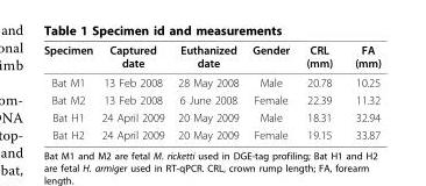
<table><thead><tr><td>Specimen</td><td>Captured date</td><td>Euthanized date</td><td>Gender</td><td>CRL (mm)</td><td>FA (mm)</td></tr></thead><tbody><tr><td>Bat M1</td><td>13 Feb 2008</td><td>28 May 2008</td><td>Male</td><td>20.78</td><td>10.25</td></tr><tr><td>Bat M2</td><td>13 Feb 2008</td><td>6 June 2008</td><td>Female</td><td>22.39</td><td>11.32</td></tr><tr><td>Bat H1</td><td>24 April 2009</td><td>20 May 2009</td><td>Male</td><td>18.31</td><td>32.94</td></tr><tr><td>Bat H2</td><td>24 April 2009</td><td>20 May 2009</td><td>Female</td><td>19.15</td><td>33.87</td></tr></tbody></table>